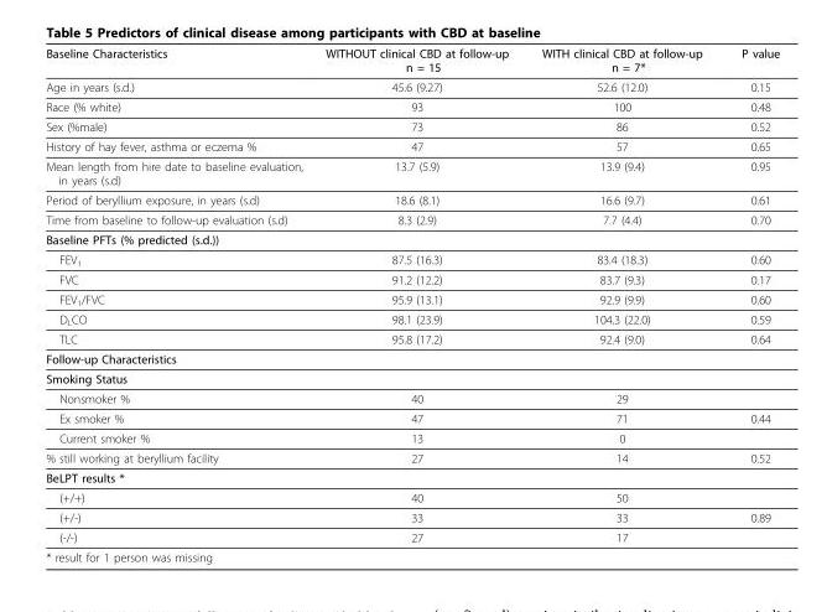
<table><thead><tr><td>Baseline Characteristics</td><td>WITHOUT clinical CBD at follow-up n = 15</td><td>WITH clinical CBD at follow-up n = 7*</td><td>P value</td></tr></thead><tbody><tr><td>Age in years (s.d.)</td><td>45.6 (9.27)</td><td>52.6 (12.0)</td><td>0.15</td></tr><tr><td>Race (% white)</td><td>93</td><td>100</td><td>0.48</td></tr><tr><td>Sex (%male)</td><td>73</td><td>86</td><td>0.52</td></tr><tr><td>History of hay fever, asthma or eczema %</td><td>47</td><td>57</td><td>0.65</td></tr><tr><td>Mean length from hire date to baseline evaluation, in years (s.d)</td><td>13.7 (5.9)</td><td>13.9 (9.4)</td><td>0.95</td></tr><tr><td>Period of beryllium exposure, in years (s.d)</td><td>18.6 (8.1)</td><td>16.6 (9.7)</td><td>0.61</td></tr><tr><td>Time from baseline to follow-up evaluation (s.d)</td><td>8.3 (2.9)</td><td>7.7 (4.4)</td><td>0.70</td></tr><tr><td colspan="4">Baseline PFTs (% predicted (s.d.))</td></tr><tr><td>FEV<sub>1</sub></td><td>87.5 (16.3)</td><td>83.4 (18.3)</td><td>0.60</td></tr><tr><td>FVC</td><td>91.2 (12.2)</td><td>83.7 (9.3)</td><td>0.17</td></tr><tr><td>FEV<sub>1</sub>/FVC</td><td>95.9 (13.1)</td><td>92.9 (9.9)</td><td>0.60</td></tr><tr><td>D<sub>L</sub>CO</td><td>98.1 (23.9)</td><td>104.3 (22.0)</td><td>0.59</td></tr><tr><td>TLC</td><td>95.8 (17.2)</td><td>92.4 (9.0)</td><td>0.64</td></tr><tr><td colspan="4">Follow-up Characteristics</td></tr><tr><td colspan="4">Smoking Status</td></tr><tr><td>Nonsmoker %</td><td>40</td><td>29</td><td></td></tr><tr><td>Ex smoker %</td><td>47</td><td>71</td><td>0.44</td></tr><tr><td>Current smoker %</td><td>13</td><td>0</td><td></td></tr><tr><td>% still working at beryllium facility</td><td>27</td><td>14</td><td>0.52</td></tr><tr><td colspan="4">BeLPT results *</td></tr><tr><td>(+/+)</td><td>40</td><td>50</td><td></td></tr><tr><td>(+/-)</td><td>33</td><td>33</td><td>0.89</td></tr><tr><td>(-/-)</td><td>27</td><td>17</td><td></td></tr><tr><td>* result for 1 person was missing</td><td></td><td></td><td></td></tr></tbody></table>